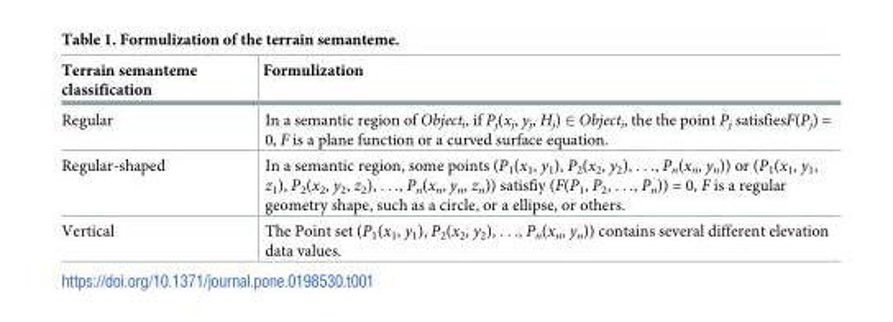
<table><thead><tr><td>Terrain semanteme classification</td><td>Formulization</td></tr></thead><tbody><tr><td>Regular</td><td>In a semantic region of Object<sub>i</sub>, if P<sub>j</sub>(x<sub>j</sub>, y<sub>j</sub>, H<sub>j</sub>) ∈ Object<sub>i</sub>, the the point P<sub>j</sub> satisfiesF(P<sub>j</sub>) = 0, F is a plane function or a curved surface equation.</td></tr><tr><td>Regular-shaped</td><td>In a semantic region, some points (P1(x1, y1), P2(x2, y2), . . ., Pn(xn, yn)) or (P1(x1, y1, z1), P2(x2, y2, z2), . . ., Pn(xn, yn, zn)) satisfiy (F(P1, P2, . . ., Pn)) = 0, F is a regular geometry shape, such as a circle, or a ellipse, or others.</td></tr><tr><td>Vertical</td><td>The Point set (P<sub>1</sub>(x<sub>1</sub>, y<sub>1</sub>), P<sub>2</sub>(x<sub>2</sub>, y<sub>2</sub>), . . ., P<sub>n</sub>(x<sub>n</sub>, y<sub>n</sub>)) contains several different elevation data values.</td></tr></tbody></table>